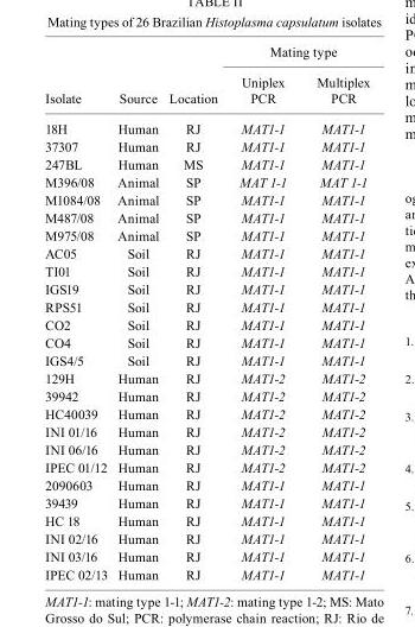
<table><tbody><tr><td rowspan="2">Isolate</td><td rowspan="2">Source</td><td rowspan="2">Location</td><td colspan="2">Mating type</td></tr><tr><td>Uniplex PCR</td><td>Multiplex PCR</td></tr><tr><td>18H</td><td>Human</td><td>RJ</td><td>MAT1-1</td><td>MAT1-1</td></tr><tr><td>37307</td><td>Human</td><td>RJ</td><td>MAT1-1</td><td>MAT1-1</td></tr><tr><td>247BL</td><td>Human</td><td>MS</td><td>MAT1-1</td><td>MAT1-1</td></tr><tr><td>M396/08</td><td>Animal</td><td>SP</td><td>MAT 1-1</td><td>MAT 1-1</td></tr><tr><td>M1084/08</td><td>Animal</td><td>SP</td><td>MAT1-1</td><td>MAT1-1</td></tr><tr><td>M487/08</td><td>Animal</td><td>SP</td><td>MAT1-1</td><td>MAT1-1</td></tr><tr><td>M975/08</td><td>Animal</td><td>SP</td><td>MAT1-1</td><td>MAT1-1</td></tr><tr><td>AC05</td><td>Soil</td><td>RJ</td><td>MAT1-1</td><td>MAT1-1</td></tr><tr><td>TI01</td><td>Soil</td><td>RJ</td><td>MAT1-1</td><td>MAT1-1</td></tr><tr><td>IGS19</td><td>Soil</td><td>RJ</td><td>MAT1-1</td><td>MAT1-1</td></tr><tr><td>RPS51</td><td>Soil</td><td>RJ</td><td>MAT1-1</td><td>MAT1-1</td></tr><tr><td>CO2</td><td>Soil</td><td>RJ</td><td>MAT1-1</td><td>MAT1-1</td></tr><tr><td>CO4</td><td>Soil</td><td>RJ</td><td>MAT1-1</td><td>MAT1-1</td></tr><tr><td>IGS4/5</td><td>Soil</td><td>RJ</td><td>MAT1-1</td><td>MAT1-1</td></tr><tr><td>129H</td><td>Human</td><td>RJ</td><td>MAT1-2</td><td>MAT1-2</td></tr><tr><td>39942</td><td>Human</td><td>RJ</td><td>MAT1-2</td><td>MAT1-2</td></tr><tr><td>HC40039</td><td>Human</td><td>RJ</td><td>MAT1-2</td><td>MAT1-2</td></tr><tr><td>INI 01/16</td><td>Human</td><td>RJ</td><td>MAT1-2</td><td>MAT1-2</td></tr><tr><td>INI 06/16</td><td>Human</td><td>RJ</td><td>MAT1-2</td><td>MAT1-2</td></tr><tr><td>IPEC 01/12</td><td>Human</td><td>RJ</td><td>MAT1-2</td><td>MAT1-2</td></tr><tr><td>2090603</td><td>Human</td><td>RJ</td><td>MAT1-1</td><td>MAT1-1</td></tr><tr><td>39439</td><td>Human</td><td>RJ</td><td>MAT1-1</td><td>MAT1-1</td></tr><tr><td>HC 18</td><td>Human</td><td>RJ</td><td>MAT1-1</td><td>MAT1-1</td></tr><tr><td>INI 02/16</td><td>Human</td><td>RJ</td><td>MAT1-1</td><td>MAT1-1</td></tr><tr><td>INI 03/16</td><td>Human</td><td>RJ</td><td>MAT1-1</td><td>MAT1-1</td></tr><tr><td>IPEC 02/13</td><td>Human</td><td>RJ</td><td>MAT1-1</td><td>MAT1-1</td></tr></tbody></table>